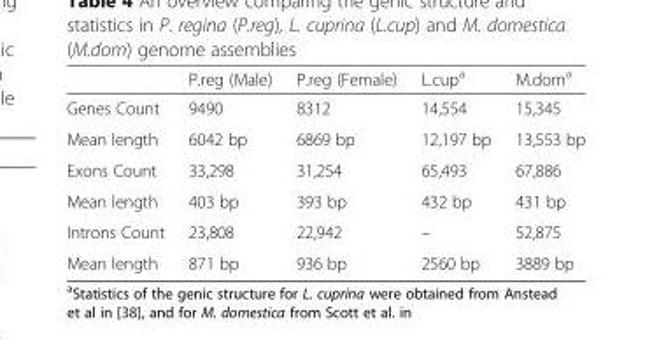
<table><thead><tr><td></td><td>P.reg (Male)</td><td>P.reg (Female)</td><td>L.cup<sup>a</sup></td><td>M.dom<sup>a</sup></td></tr></thead><tbody><tr><td>Genes Count</td><td>9490</td><td>8312</td><td>14,554</td><td>15,345</td></tr><tr><td>Mean length</td><td>6042 bp</td><td>6869 bp</td><td>12,197 bp</td><td>13,553 bp</td></tr><tr><td>Exons Count</td><td>33,298</td><td>31,254</td><td>65,493</td><td>67,886</td></tr><tr><td>Mean length</td><td>403 bp</td><td>393 bp</td><td>432 bp</td><td>431 bp</td></tr><tr><td>Introns Count</td><td>23,808</td><td>22,942</td><td>–</td><td>52,875</td></tr><tr><td>Mean length</td><td>871 bp</td><td>936 bp</td><td>2560 bp</td><td>3889 bp</td></tr></tbody></table>